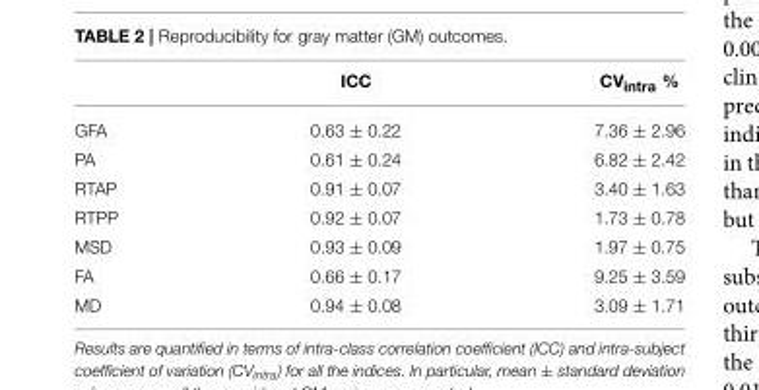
<table><thead><tr><td></td><td>ICC</td><td>CV<sub>intra</sub> %</td></tr></thead><tbody><tr><td>GFA</td><td>0.63 ± 0.22</td><td>7.36 ± 2.96</td></tr><tr><td>PA</td><td>0.61 ± 0.24</td><td>6.82 ± 2.42</td></tr><tr><td>RTAP</td><td>0.91 ± 0.07</td><td>3.40 ± 1.63</td></tr><tr><td>RTPP</td><td>0.92 ± 0.07</td><td>1.73 ± 0.78</td></tr><tr><td>MSD</td><td>0.93 ± 0.09</td><td>1.97 ± 0.75</td></tr><tr><td>FA</td><td>0.66 ± 0.17</td><td>9.25 ± 3.59</td></tr><tr><td>MD</td><td>0.94 ± 0.08</td><td>3.09 ± 1.71</td></tr></tbody></table>